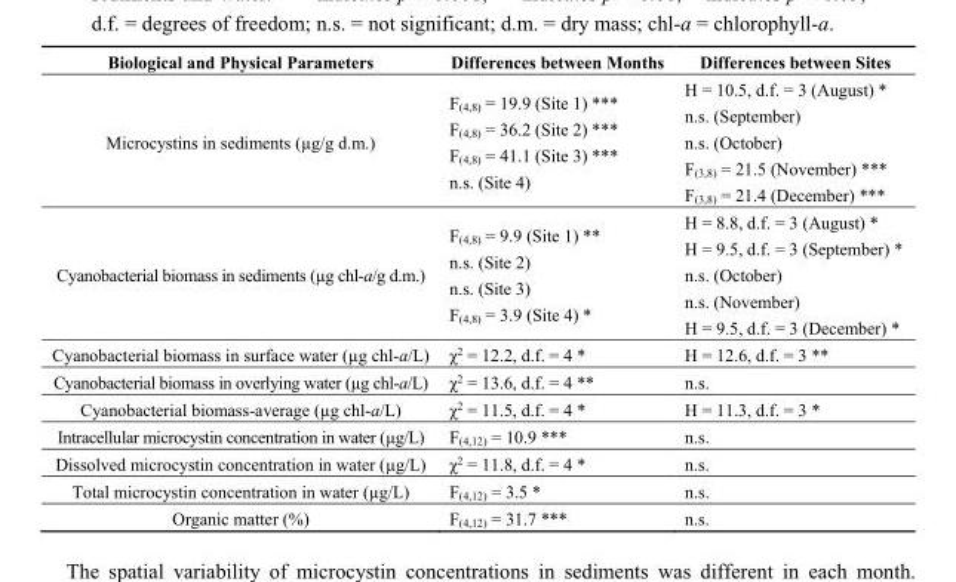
<table><thead><tr><td>Biological and Physical Parameters</td><td>Differences between Months</td><td>Differences between Sites</td></tr></thead><tbody><tr><td>Microcystins in sediments (µg/g d.m.)</td><td>F<sub>(4,8)</sub> = 19.9 (Site 1) *** F<sub>(4,8)</sub> = 36.2 (Site 2) *** F<sub>(4,8)</sub> = 41.1 (Site 3) *** n.s. (Site 4)</td><td>H = 10.5, d.f. = 3 (August) * n.s. (September) n.s. (October) F<sub>(3,8)</sub> = 21.5 (November) *** F<sub>(3,8)</sub> = 21.4 (December) ***</td></tr><tr><td>Cyanobacterial biomass in sediments (µg chl-a/g d.m.)</td><td>F<sub>(4,8)</sub> = 9.9 (Site 1) ** n.s. (Site 2) n.s. (Site 3) F<sub>(4,8)</sub> = 3.9 (Site 4) *</td><td>H = 8.8, d.f. = 3 (August) * H = 9.5, d.f. = 3 (September) * n.s. (October) n.s. (November) H = 9.5, d.f. = 3 (December) *</td></tr><tr><td>Cyanobacterial biomass in surface water (µg chl-a/L)</td><td>χ<sup>2</sup> = 12.2, d.f. = 4 *</td><td>H = 12.6, d.f. = 3 **</td></tr><tr><td>Cyanobacterial biomass in overlying water (µg chl-a/L)</td><td>χ<sup>2</sup> = 13.6, d.f. = 4 **</td><td>n.s.</td></tr><tr><td>Cyanobacterial biomass-average (µg chl-a/L)</td><td>χ<sup>2</sup> = 11.5, d.f. = 4 *</td><td>H = 11.3, d.f. = 3 *</td></tr><tr><td>Intracellular microcystin concentration in water (µg/L)</td><td>F<sub>(4,12)</sub> = 10.9 ***</td><td>n.s.</td></tr><tr><td>Dissolved microcystin concentration in water (µg/L)</td><td>χ<sup>2</sup> = 11.8, d.f. = 4 *</td><td>n.s.</td></tr><tr><td>Total microcystin concentration in water (µg/L)</td><td>F<sub>(4,12)</sub> = 3.5 *</td><td>n.s.</td></tr><tr><td>Organic matter (%)</td><td>F<sub>(4,12)</sub> = 31.7 ***</td><td>n.s.</td></tr></tbody></table>